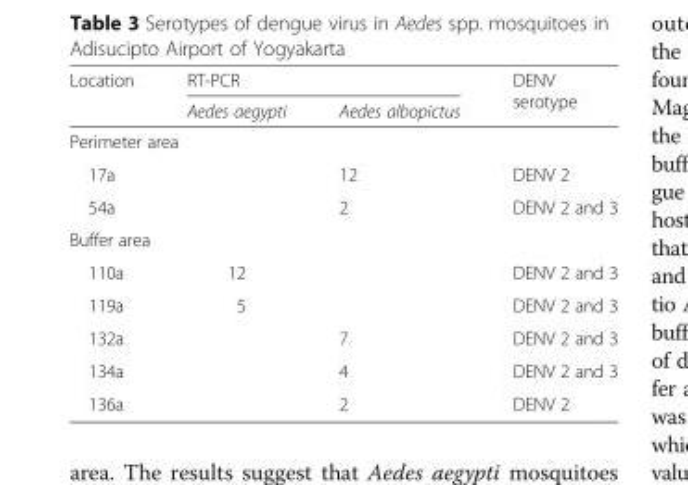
<table><thead><tr><td rowspan="2">Location</td><td colspan="2">RT-PCR</td><td rowspan="2">DENV serotype</td></tr><tr><td>Aedes aegypti</td><td>Aedes albopictus</td></tr></thead><tbody><tr><td colspan="4">Perimeter area</td></tr><tr><td>17a</td><td></td><td>12</td><td>DENV 2</td></tr><tr><td>54a</td><td></td><td>2</td><td>DENV 2 and 3</td></tr><tr><td colspan="4">Buffer area</td></tr><tr><td>110a</td><td>12</td><td></td><td>DENV 2 and 3</td></tr><tr><td>119a</td><td>5</td><td></td><td>DENV 2 and 3</td></tr><tr><td>132a</td><td></td><td>7</td><td>DENV 2 and 3</td></tr><tr><td>134a</td><td></td><td>4</td><td>DENV 2 and 3</td></tr><tr><td>136a</td><td></td><td>2</td><td>DENV 2</td></tr></tbody></table>